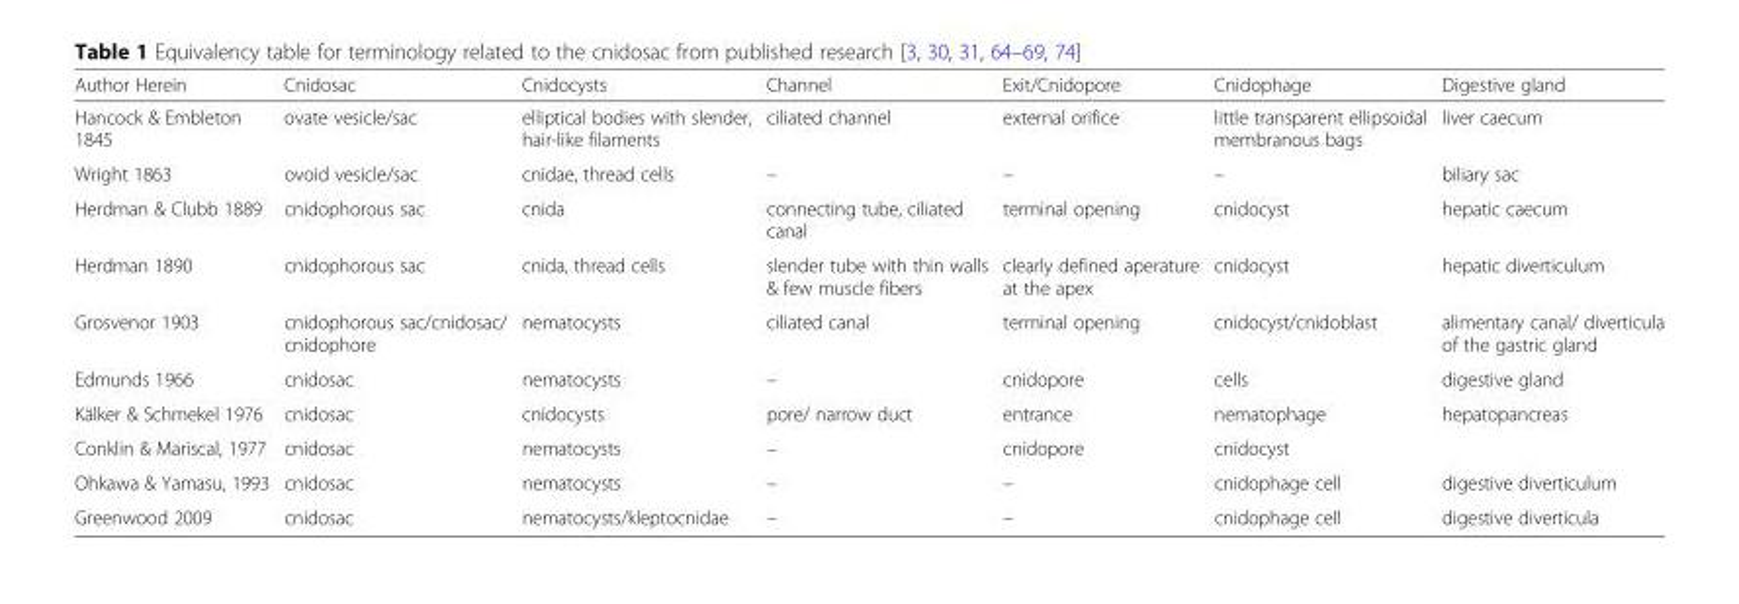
<table><thead><tr><td>Author Herein</td><td>Cnidosac</td><td>Cnidocysts</td><td>Channel</td><td>Exit/Cnidopore</td><td>Cnidophage</td><td>Digestive gland</td></tr></thead><tbody><tr><td>Hancock &amp; Embleton 1845</td><td>ovate vesicle/sac</td><td>elliptical bodies with slender, hair-like filaments</td><td>ciliated channel</td><td>external orifice</td><td>little transparent ellipsoidal membranous bags</td><td>liver caecum</td></tr><tr><td>Wright 1863</td><td>ovoid vesicle/sac</td><td>cnidae, thread cells</td><td>–</td><td>–</td><td>–</td><td>biliary sac</td></tr><tr><td>Herdman &amp; Clubb 1889</td><td>cnidophorous sac</td><td>cnida</td><td>connecting tube, ciliated canal</td><td>terminal opening</td><td>cnidocyst</td><td>hepatic caecum</td></tr><tr><td>Herdman 1890</td><td>cnidophorous sac</td><td>cnida, thread cells</td><td>slender tube with thin walls &amp; few muscle fibers</td><td>clearly defined aperature at the apex</td><td>cnidocyst</td><td>hepatic diverticulum</td></tr><tr><td>Grosvenor 1903</td><td>cnidophorous sac/cnidosac/ cnidophore</td><td>nematocysts</td><td>ciliated canal</td><td>terminal opening</td><td>cnidocyst/cnidoblast</td><td>alimentary canal/ diverticula of the gastric gland</td></tr><tr><td>Edmunds 1966</td><td>cnidosac</td><td>nematocysts</td><td>–</td><td>cnidopore</td><td>cells</td><td>digestive gland</td></tr><tr><td>Kälker &amp; Schmekel 1976</td><td>cnidosac</td><td>cnidocysts</td><td>pore/ narrow duct</td><td>entrance</td><td>nematophage</td><td>hepatopancreas</td></tr><tr><td>Conklin &amp; Mariscal, 1977</td><td>cnidosac</td><td>nematocysts</td><td>–</td><td>cnidopore</td><td>cnidocyst</td><td></td></tr><tr><td>Ohkawa &amp; Yamasu, 1993</td><td>cnidosac</td><td>nematocysts</td><td>–</td><td>–</td><td>cnidophage cell</td><td>digestive diverticulum</td></tr><tr><td>Greenwood 2009</td><td>cnidosac</td><td>nematocysts/kleptocnidae</td><td>–</td><td>–</td><td>cnidophage cell</td><td>digestive diverticula</td></tr></tbody></table>